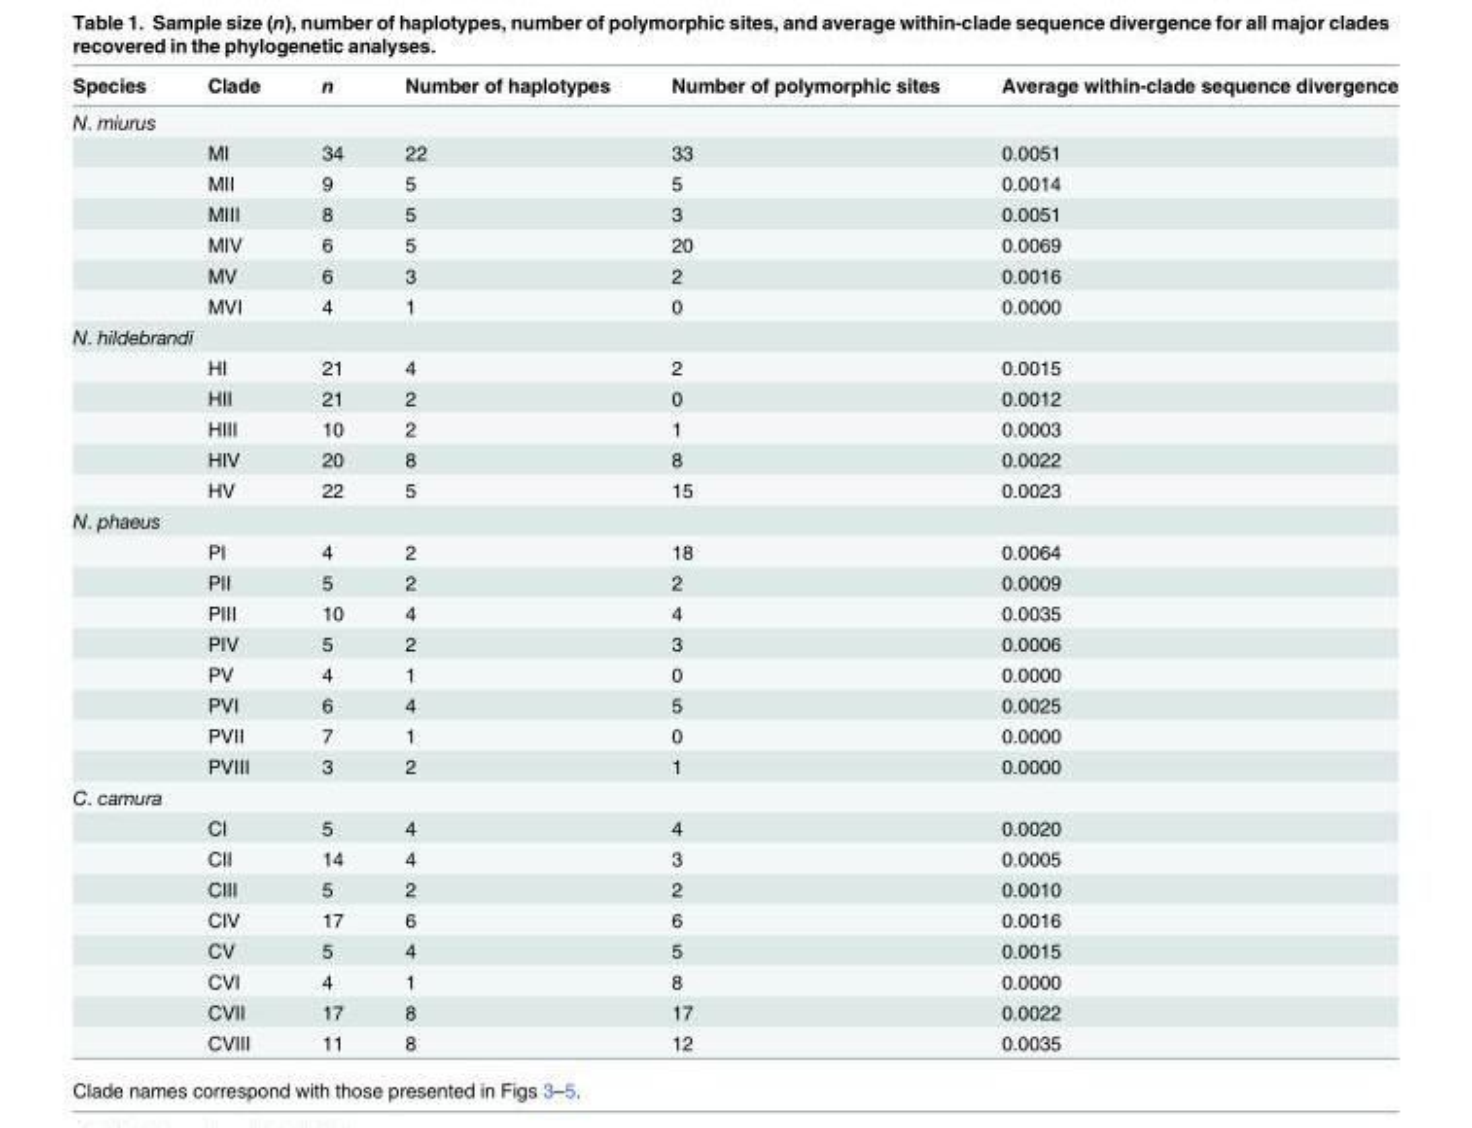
<table><thead><tr><td>Species</td><td>Clade</td><td>n</td><td>Number of haplotypes</td><td>Number of polymorphic sites</td><td>Average within-clade sequence divergence</td></tr></thead><tbody><tr><td colspan="6">N. miurus</td></tr><tr><td></td><td>MI</td><td>34</td><td>22</td><td>33</td><td>0.0051</td></tr><tr><td></td><td>MII</td><td>9</td><td>5</td><td>5</td><td>0.0014</td></tr><tr><td></td><td>MIII</td><td>8</td><td>5</td><td>3</td><td>0.0051</td></tr><tr><td></td><td>MIV</td><td>6</td><td>5</td><td>20</td><td>0.0069</td></tr><tr><td></td><td>MV</td><td>6</td><td>3</td><td>2</td><td>0.0016</td></tr><tr><td></td><td>MVI</td><td>4</td><td>1</td><td>0</td><td>0.0000</td></tr><tr><td colspan="6">N. hildebrandi</td></tr><tr><td></td><td>HI</td><td>21</td><td>4</td><td>2</td><td>0.0015</td></tr><tr><td></td><td>HII</td><td>21</td><td>2</td><td>0</td><td>0.0012</td></tr><tr><td></td><td>HIII</td><td>10</td><td>2</td><td>1</td><td>0.0003</td></tr><tr><td></td><td>HIV</td><td>20</td><td>8</td><td>8</td><td>0.0022</td></tr><tr><td></td><td>HV</td><td>22</td><td>5</td><td>15</td><td>0.0023</td></tr><tr><td colspan="6">N. phaeus</td></tr><tr><td></td><td>PI</td><td>4</td><td>2</td><td>18</td><td>0.0064</td></tr><tr><td></td><td>PII</td><td>5</td><td>2</td><td>2</td><td>0.0009</td></tr><tr><td></td><td>PIII</td><td>10</td><td>4</td><td>4</td><td>0.0035</td></tr><tr><td></td><td>PIV</td><td>5</td><td>2</td><td>3</td><td>0.0006</td></tr><tr><td></td><td>PV</td><td>4</td><td>1</td><td>0</td><td>0.0000</td></tr><tr><td></td><td>PVI</td><td>6</td><td>4</td><td>5</td><td>0.0025</td></tr><tr><td></td><td>PVII</td><td>7</td><td>1</td><td>0</td><td>0.0000</td></tr><tr><td></td><td>PVIII</td><td>3</td><td>2</td><td>1</td><td>0.0000</td></tr><tr><td colspan="6">C. camura</td></tr><tr><td></td><td>CI</td><td>5</td><td>4</td><td>4</td><td>0.0020</td></tr><tr><td></td><td>CII</td><td>14</td><td>4</td><td>3</td><td>0.0005</td></tr><tr><td></td><td>CIII</td><td>5</td><td>2</td><td>2</td><td>0.0010</td></tr><tr><td></td><td>CIV</td><td>17</td><td>6</td><td>6</td><td>0.0016</td></tr><tr><td></td><td>CV</td><td>5</td><td>4</td><td>5</td><td>0.0015</td></tr><tr><td></td><td>CVI</td><td>4</td><td>1</td><td>8</td><td>0.0000</td></tr><tr><td></td><td>CVII</td><td>17</td><td>8</td><td>17</td><td>0.0022</td></tr><tr><td></td><td>CVIII</td><td>11</td><td>8</td><td>12</td><td>0.0035</td></tr></tbody></table>